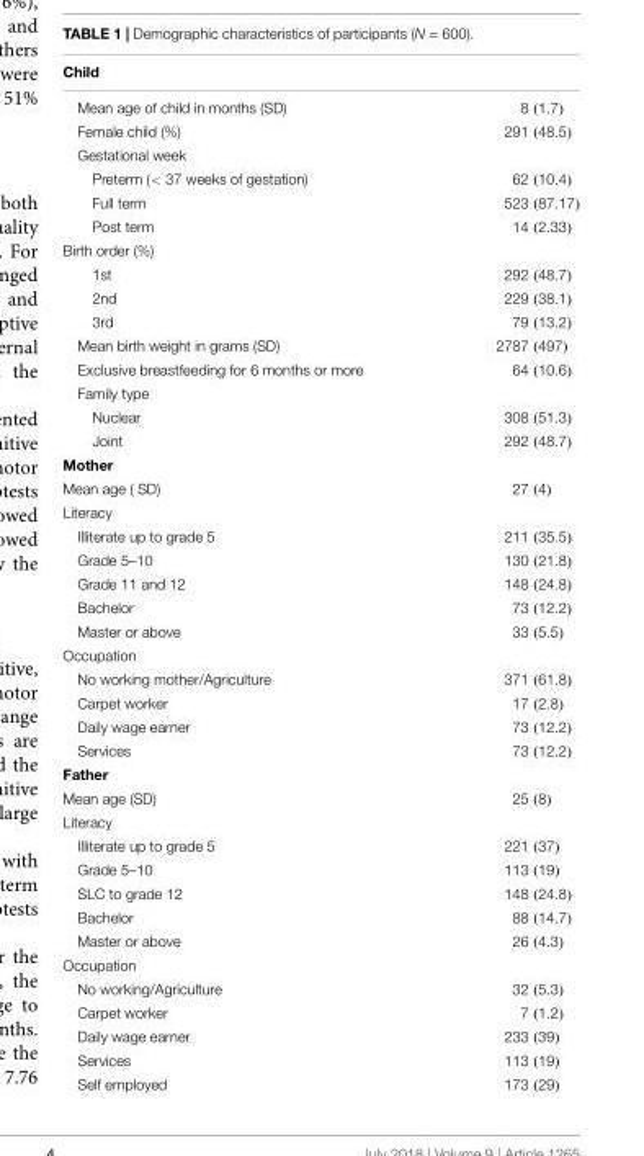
<table><thead><tr><td>Child</td><td></td></tr></thead><tbody><tr><td>Mean age of child in months (SD)</td><td>8 (1.7)</td></tr><tr><td>Female child (%)</td><td>291 (48.5)</td></tr><tr><td colspan="2">Gestational week</td></tr><tr><td>Preterm (&lt; 37 weeks of gestation)</td><td>62 (10.4)</td></tr><tr><td>Full term</td><td>523 (87.17)</td></tr><tr><td>Post term</td><td>14 (2.33)</td></tr><tr><td colspan="2">Birth order (%)</td></tr><tr><td>1st</td><td>292 (48.7)</td></tr><tr><td>2nd</td><td>229 (38.1)</td></tr><tr><td>3rd</td><td>79 (13.2)</td></tr><tr><td>Mean birth weight in grams (SD)</td><td>2787 (497)</td></tr><tr><td>Exclusive breastfeeding for 6 months or more</td><td>64 (10.6)</td></tr><tr><td colspan="2">Family type</td></tr><tr><td>Nuclear</td><td>308 (51.3)</td></tr><tr><td>Joint</td><td>292 (48.7)</td></tr><tr><td colspan="2">Mother</td></tr><tr><td>Mean age ( SD)</td><td>27 (4)</td></tr><tr><td colspan="2">Literacy</td></tr><tr><td>Illiterate up to grade 5</td><td>211 (35.5)</td></tr><tr><td>Grade 5–10</td><td>130 (21.8)</td></tr><tr><td>Grade 11 and 12</td><td>148 (24.8)</td></tr><tr><td>Bachelor</td><td>73 (12.2)</td></tr><tr><td>Master or above</td><td>33 (5.5)</td></tr><tr><td colspan="2">Occupation</td></tr><tr><td>No working mother/Agriculture</td><td>371 (61.8)</td></tr><tr><td>Carpet worker</td><td>17 (2.8)</td></tr><tr><td>Daily wage earner</td><td>73 (12.2)</td></tr><tr><td>Services</td><td>73 (12.2)</td></tr><tr><td colspan="2">Father</td></tr><tr><td>Mean age (SD)</td><td>25 (8)</td></tr><tr><td colspan="2">Literacy</td></tr><tr><td>Illiterate up to grade 5</td><td>221 (37)</td></tr><tr><td>Grade 5–10</td><td>113 (19)</td></tr><tr><td>SLC to grade 12</td><td>148 (24.8)</td></tr><tr><td>Bachelor</td><td>88 (14.7)</td></tr><tr><td>Master or above</td><td>26 (4.3)</td></tr><tr><td colspan="2">Occupation</td></tr><tr><td>No working/Agriculture</td><td>32 (5.3)</td></tr><tr><td>Carpet worker</td><td>7 (1.2)</td></tr><tr><td>Daily wage earner</td><td>233 (39)</td></tr><tr><td>Services</td><td>113 (19)</td></tr><tr><td>Self employed</td><td>173 (29)</td></tr></tbody></table>